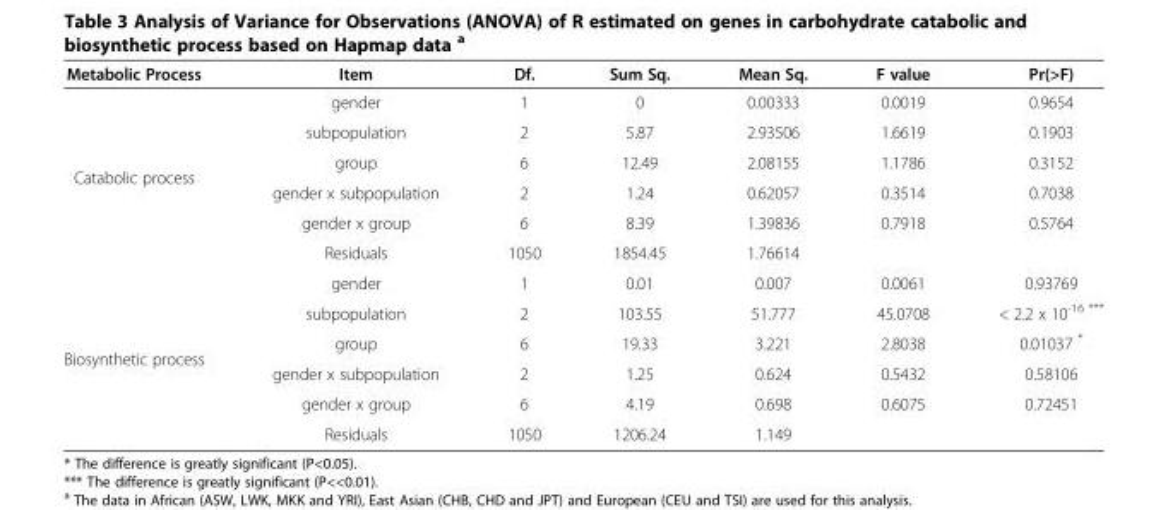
<table><thead><tr><td>Metabolic Process</td><td>Item</td><td>Df.</td><td>Sum Sq.</td><td>Mean Sq.</td><td>F value</td><td>Pr(&gt;F)</td></tr></thead><tbody><tr><td rowspan="6">Catabolic process</td><td>gender</td><td>1</td><td>0</td><td>0.00333</td><td>0.0019</td><td>0.9654</td></tr><tr><td>subpopulation</td><td>2</td><td>5.87</td><td>2.93506</td><td>1.6619</td><td>0.1903</td></tr><tr><td>group</td><td>6</td><td>12.49</td><td>2.08155</td><td>1.1786</td><td>0.3152</td></tr><tr><td>gender x subpopulation</td><td>2</td><td>1.24</td><td>0.62057</td><td>0.3514</td><td>0.7038</td></tr><tr><td>gender x group</td><td>6</td><td>8.39</td><td>1.39836</td><td>0.7918</td><td>0.5764</td></tr><tr><td>Residuals</td><td>1050</td><td>1854.45</td><td>1.76614</td><td></td><td></td></tr><tr><td rowspan="6">Biosynthetic process</td><td>gender</td><td>1</td><td>0.01</td><td>0.007</td><td>0.0061</td><td>0.93769</td></tr><tr><td>subpopulation</td><td>2</td><td>103.55</td><td>51.777</td><td>45.0708</td><td>&lt; 2.2 x 10<sup>-16 ***</sup></td></tr><tr><td>group</td><td>6</td><td>19.33</td><td>3.221</td><td>2.8038</td><td>0.01037 *</td></tr><tr><td>gender x subpopulation</td><td>2</td><td>1.25</td><td>0.624</td><td>0.5432</td><td>0.58106</td></tr><tr><td>gender x group</td><td>6</td><td>4.19</td><td>0.698</td><td>0.6075</td><td>0.72451</td></tr><tr><td>Residuals</td><td>1050</td><td>1206.24</td><td>1.149</td><td></td><td></td></tr></tbody></table>